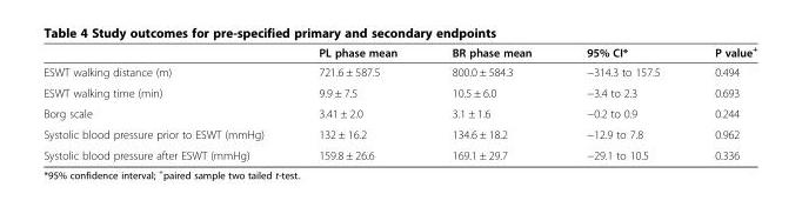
<table><thead><tr><td></td><td>PL phase mean</td><td>BR phase mean</td><td>95% CI*</td><td>P value<sup>+</sup></td></tr></thead><tbody><tr><td>ESWT walking distance (m)</td><td>721.6 ± 587.5</td><td>800.0 ± 584.3</td><td>−314.3 to 157.5</td><td>0.494</td></tr><tr><td>ESWT walking time (min)</td><td>9.9 ± 7.5</td><td>10.5 ± 6.0</td><td>−3.4 to 2.3</td><td>0.693</td></tr><tr><td>Borg scale</td><td>3.41 ± 2.0</td><td>3.1 ± 1.6</td><td>−0.2 to 0.9</td><td>0.244</td></tr><tr><td>Systolic blood pressure prior to ESWT (mmHg)</td><td>132 ± 16.2</td><td>134.6 ± 18.2</td><td>−12.9 to 7.8</td><td>0.962</td></tr><tr><td>Systolic blood pressure after ESWT (mmHg)</td><td>159.8 ± 26.6</td><td>169.1 ± 29.7</td><td>−29.1 to 10.5</td><td>0.336</td></tr></tbody></table>